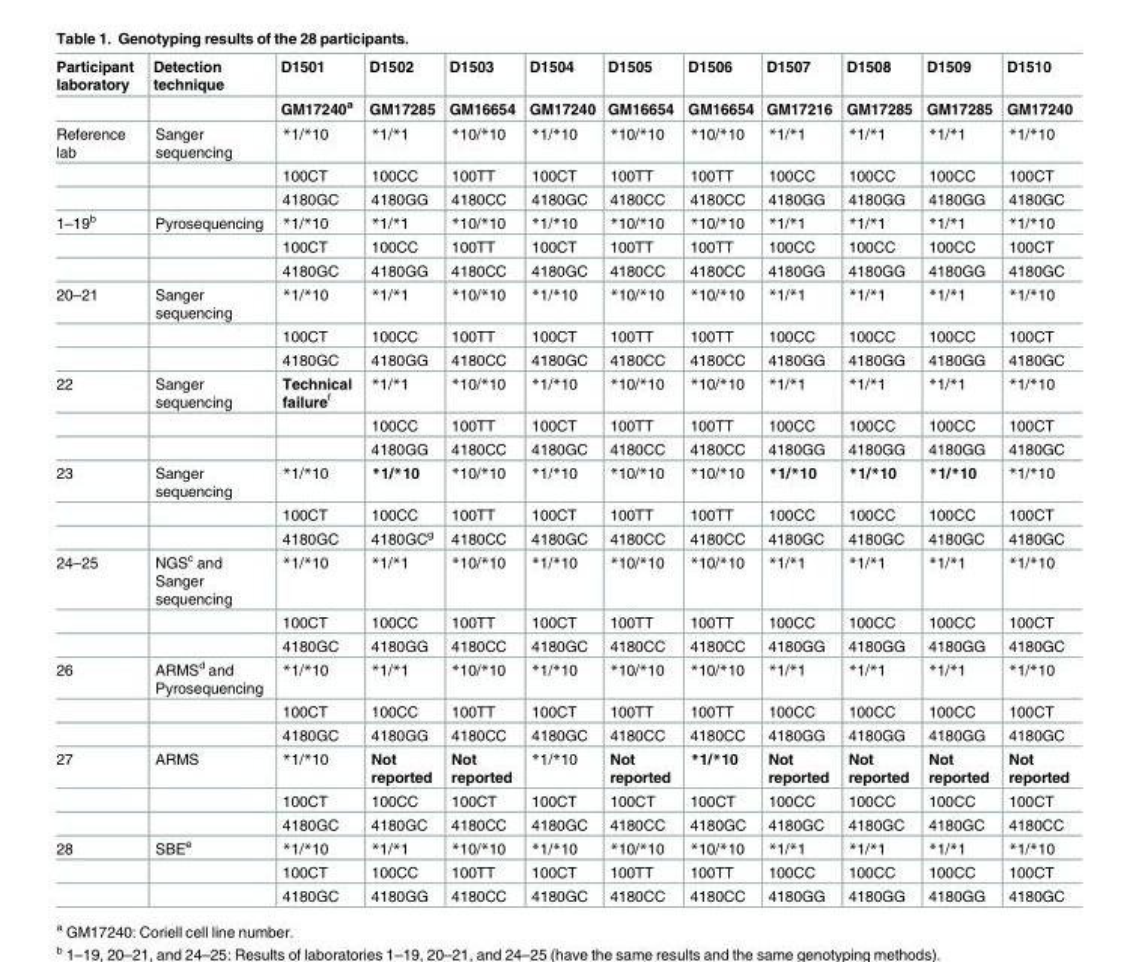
<table><thead><tr><td rowspan="2">Participant laboratory</td><td rowspan="2">Detection technique</td><td rowspan="2">D1501 GM17240<sup>a</sup></td><td rowspan="2">D1502 GM17285</td><td rowspan="2">D1503 GM16654</td><td rowspan="2">D1504 GM17240</td><td rowspan="2">D1505 GM16654</td><td rowspan="2">D1506 GM16654</td><td rowspan="2">D1507 GM17216</td><td rowspan="2">D1508 GM17285</td><td rowspan="2">D1509 GM17285</td><td rowspan="2">D1510 GM17240</td></tr><tr></tr></thead><tbody><tr><td rowspan="3">Reference lab</td><td>Sanger sequencing</td><td>*1/*10</td><td>*1/*1</td><td>*10/*10</td><td>*1/*10</td><td>*10/*10</td><td>*10/*10</td><td>*1/*1</td><td>*1/*1</td><td>*1/*1</td><td>*1/*10</td></tr><tr><td></td><td>100CT</td><td>100CC</td><td>100TT</td><td>100CT</td><td>100TT</td><td>100TT</td><td>100CC</td><td>100CC</td><td>100CC</td><td>100CT</td></tr><tr><td></td><td>4180GC</td><td>4180GG</td><td>4180CC</td><td>4180GC</td><td>4180CC</td><td>4180CC</td><td>4180GG</td><td>4180GG</td><td>4180GG</td><td>4180GC</td></tr><tr><td rowspan="3">1–19<sup>b</sup></td><td>Pyrosequencing</td><td>*1/*10</td><td>*1/*1</td><td>*10/*10</td><td>*1/*10</td><td>*10/*10</td><td>*10/*10</td><td>*1/*1</td><td>*1/*1</td><td>*1/*1</td><td>*1/*10</td></tr><tr><td></td><td>100CT</td><td>100CC</td><td>100TT</td><td>100CT</td><td>100TT</td><td>100TT</td><td>100CC</td><td>100CC</td><td>100CC</td><td>100CT</td></tr><tr><td></td><td>4180GC</td><td>4180GG</td><td>4180CC</td><td>4180GC</td><td>4180CC</td><td>4180CC</td><td>4180GG</td><td>4180GG</td><td>4180GG</td><td>4180GC</td></tr><tr><td rowspan="3">20–21</td><td>Sanger sequencing</td><td>*1/*10</td><td>*1/*1</td><td>*10/*10</td><td>*1/*10</td><td>*10/*10</td><td>*10/*10</td><td>*1/*1</td><td>*1/*1</td><td>*1/*1</td><td>*1/*10</td></tr><tr><td></td><td>100CT</td><td>100CC</td><td>100TT</td><td>100CT</td><td>100TT</td><td>100TT</td><td>100CC</td><td>100CC</td><td>100CC</td><td>100CT</td></tr><tr><td></td><td>4180GC</td><td>4180GG</td><td>4180CC</td><td>4180GC</td><td>4180CC</td><td>4180CC</td><td>4180GG</td><td>4180GG</td><td>4180GG</td><td>4180GC</td></tr><tr><td rowspan="3">22</td><td>Sanger sequencing</td><td>Technical failure<sup>f</sup></td><td>*1/*1</td><td>*10/*10</td><td>*1/*10</td><td>*10/*10</td><td>*10/*10</td><td>*1/*1</td><td>*1/*1</td><td>*1/*1</td><td>*1/*10</td></tr><tr><td></td><td></td><td>100CC</td><td>100TT</td><td>100CT</td><td>100TT</td><td>100TT</td><td>100CC</td><td>100CC</td><td>100CC</td><td>100CT</td></tr><tr><td></td><td></td><td>4180GG</td><td>4180CC</td><td>4180GC</td><td>4180CC</td><td>4180CC</td><td>4180GG</td><td>4180GG</td><td>4180GG</td><td>4180GC</td></tr><tr><td rowspan="3">23</td><td>Sanger sequencing</td><td>*1/*10</td><td>*1/*10</td><td>*10/*10</td><td>*1/*10</td><td>*10/*10</td><td>*10/*10</td><td>*1/*10</td><td>*1/*10</td><td>*1/*10</td><td>*1/*10</td></tr><tr><td></td><td>100CT</td><td>100CC</td><td>100TT</td><td>100CT</td><td>100TT</td><td>100TT</td><td>100CC</td><td>100CC</td><td>100CC</td><td>100CT</td></tr><tr><td></td><td>4180GC</td><td>4180GC<sup>g</sup></td><td>4180CC</td><td>4180GC</td><td>4180CC</td><td>4180CC</td><td>4180GC</td><td>4180GC</td><td>4180GC</td><td>4180GC</td></tr><tr><td rowspan="3">24–25</td><td>NGS<sup>c</sup> and Sanger sequencing</td><td>*1/*10</td><td>*1/*1</td><td>*10/*10</td><td>*1/*10</td><td>*10/*10</td><td>*10/*10</td><td>*1/*1</td><td>*1/*1</td><td>*1/*1</td><td>*1/*10</td></tr><tr><td></td><td>100CT</td><td>100CC</td><td>100TT</td><td>100CT</td><td>100TT</td><td>100TT</td><td>100CC</td><td>100CC</td><td>100CC</td><td>100CT</td></tr><tr><td></td><td>4180GC</td><td>4180GG</td><td>4180CC</td><td>4180GC</td><td>4180CC</td><td>4180CC</td><td>4180GG</td><td>4180GG</td><td>4180GG</td><td>4180GC</td></tr><tr><td rowspan="3">26</td><td>ARMS<sup>d</sup> and Pyrosequencing</td><td>*1/*10</td><td>*1/*1</td><td>*10/*10</td><td>*1/*10</td><td>*10/*10</td><td>*10/*10</td><td>*1/*1</td><td>*1/*1</td><td>*1/*1</td><td>*1/*10</td></tr><tr><td></td><td>100CT</td><td>100CC</td><td>100TT</td><td>100CT</td><td>100TT</td><td>100TT</td><td>100CC</td><td>100CC</td><td>100CC</td><td>100CT</td></tr><tr><td></td><td>4180GC</td><td>4180GG</td><td>4180CC</td><td>4180GC</td><td>4180CC</td><td>4180CC</td><td>4180GG</td><td>4180GG</td><td>4180GG</td><td>4180GC</td></tr><tr><td rowspan="3">27</td><td>ARMS</td><td>*1/*10</td><td>Not reported</td><td>Not reported</td><td>*1/*10</td><td>Not reported</td><td>*1/*10</td><td>Not reported</td><td>Not reported</td><td>Not reported</td><td>Not reported</td></tr><tr><td></td><td>100CT</td><td>100CC</td><td>100CT</td><td>100CT</td><td>100CT</td><td>100CT</td><td>100CC</td><td>100CC</td><td>100CC</td><td>100CT</td></tr><tr><td></td><td>4180GC</td><td>4180GC</td><td>4180CC</td><td>4180GC</td><td>4180CC</td><td>4180GC</td><td>4180GC</td><td>4180GC</td><td>4180GC</td><td>4180CC</td></tr><tr><td rowspan="3">28</td><td>SBE<sup>e</sup></td><td>*1/*10</td><td>*1/*1</td><td>*10/*10</td><td>*1/*10</td><td>*10/*10</td><td>*10/*10</td><td>*1/*1</td><td>*1/*1</td><td>*1/*1</td><td>*1/*10</td></tr><tr><td></td><td>100CT</td><td>100CC</td><td>100TT</td><td>100CT</td><td>100TT</td><td>100TT</td><td>100CC</td><td>100CC</td><td>100CC</td><td>100CT</td></tr><tr><td></td><td>4180GC</td><td>4180GG</td><td>4180CC</td><td>4180GC</td><td>4180CC</td><td>4180CC</td><td>4180GG</td><td>4180GG</td><td>4180GG</td><td>4180GC</td></tr></tbody></table>